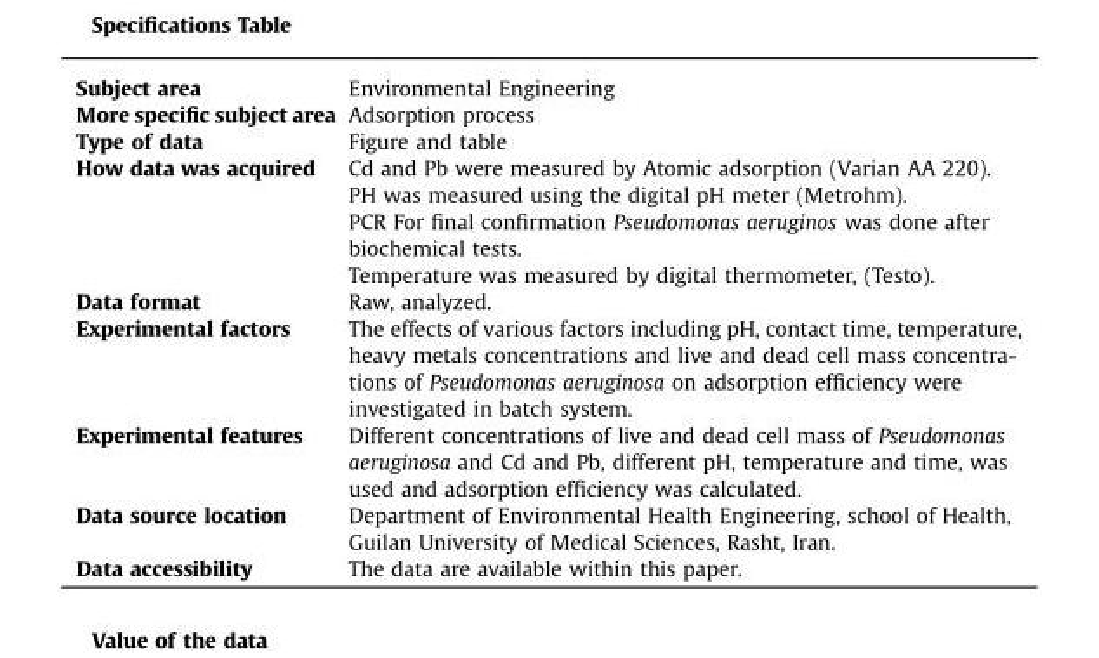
<table><tbody><tr><td>Subject area</td><td>Environmental Engineering</td></tr><tr><td>More specific subject area</td><td>Adsorption process</td></tr><tr><td>Type of data</td><td>Figure and table</td></tr><tr><td rowspan="4">How data was acquired</td><td>Cd and Pb were measured by Atomic adsorption (Varian AA 220).</td></tr><tr><td>PH was measured using the digital pH meter (Metrohm).</td></tr><tr><td>PCR For final confirmation Pseudomonas aeruginos was done after biochemical tests.</td></tr><tr><td>Temperature was measured by digital thermometer, (Testo).</td></tr><tr><td>Data format</td><td>Raw, analyzed.</td></tr><tr><td>Experimental factors</td><td>The effects of various factors including pH, contact time, temperature, heavy metals concentrations and live and dead cell mass concentra- tions of Pseudomonas aeruginosa on adsorption efficiency were investigated in batch system.</td></tr><tr><td>Experimental features</td><td>Different concentrations of live and dead cell mass of Pseudomonas aeruginosa and Cd and Pb, different pH, temperature and time, was used and adsorption efficiency was calculated.</td></tr><tr><td>Data source location</td><td>Department of Environmental Health Engineering, school of Health, Guilan University of Medical Sciences, Rasht, Iran.</td></tr><tr><td>Data accessibility</td><td>The data are available within this paper.</td></tr></tbody></table>